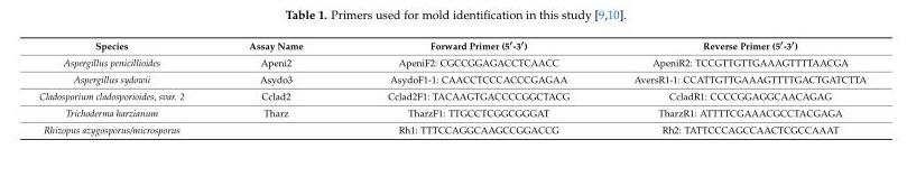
<table><thead><tr><td>Species</td><td>Assay Name</td><td>Forward Primer (5′-3′)</td><td>Reverse Primer (5′-3′)</td></tr></thead><tbody><tr><td>Aspergillus penicillioides</td><td>Apeni2</td><td>ApeniF2: CGCCGGAGACCTCAACC</td><td>ApeniR2: TCCGTTGTTGAAAGTTTTAACGA</td></tr><tr><td>Aspergillus sydowii</td><td>Asydo3</td><td>AsydoF1-1: CAACCTCCCACCCGAGAA</td><td>AversR1-1: CCATTGTTGAAAGTTTTGACTGATCTTA</td></tr><tr><td>Cladosporium cladosporioides, svar. 2</td><td>Cclad2</td><td>Cclad2F1: TACAAGTGACCCCGGCTACG</td><td>CcladR1: CCCCGGAGGCAACAGAG</td></tr><tr><td>Trichoderma harzianum</td><td>Tharz</td><td>TharzF1: TTGCCTCGGCGGGAT</td><td>TharzR1: ATTTTCGAAACGCCTACGAGA</td></tr><tr><td>Rhizopus azygosporus/microsporus</td><td></td><td>Rh1: TTTCCAGGCAAGCCGGACCG</td><td>Rh2: TATTCCCAGCCAACTCGCCAAAT</td></tr></tbody></table>